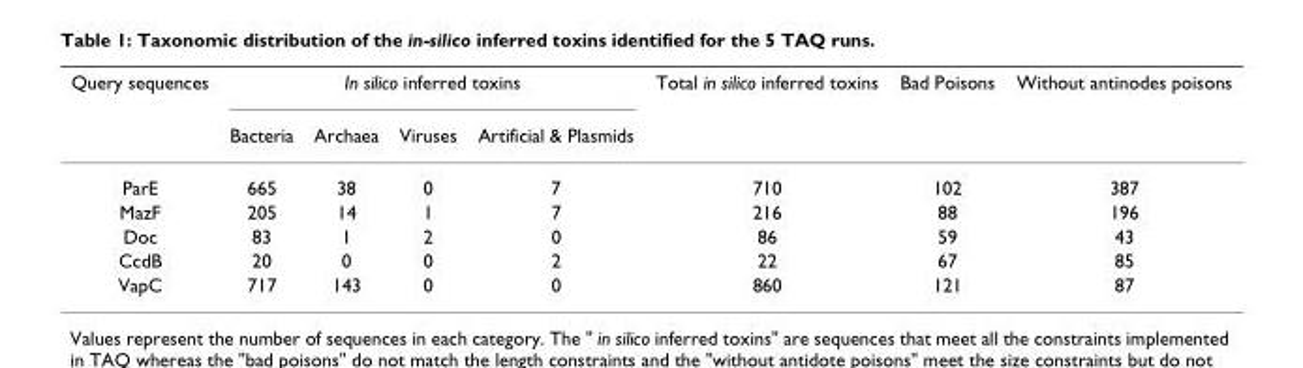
<table><thead><tr><td rowspan="2">Query sequences</td><td colspan="4">In silico inferred toxins</td><td rowspan="2">Total in silico inferred toxins</td><td rowspan="2">Bad Poisons</td><td rowspan="2">Without antinodes poisons</td></tr><tr><td>Bacteria</td><td>Archaea</td><td>Viruses</td><td>Artificial &amp; Plasmids</td></tr></thead><tbody><tr><td>ParE</td><td>665</td><td>38</td><td>0</td><td>7</td><td>710</td><td>102</td><td>387</td></tr><tr><td>MazF</td><td>205</td><td>14</td><td>1</td><td>7</td><td>216</td><td>88</td><td>196</td></tr><tr><td>Doc</td><td>83</td><td>1</td><td>2</td><td>0</td><td>86</td><td>59</td><td>43</td></tr><tr><td>CcdB</td><td>20</td><td>0</td><td>0</td><td>2</td><td>22</td><td>67</td><td>85</td></tr><tr><td>VapC</td><td>717</td><td>143</td><td>0</td><td>0</td><td>860</td><td>121</td><td>87</td></tr></tbody></table>